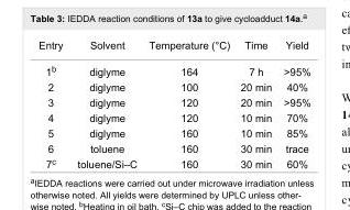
<table><tbody><tr><td>Entry</td><td>Solvent</td><td>Temperature (°C)</td><td>Time</td><td>Yield</td></tr><tr><td>1<sup>b</sup></td><td>diglyme</td><td>164</td><td>7 h</td><td>&gt;95%</td></tr><tr><td>2</td><td>diglyme</td><td>100</td><td>20 min</td><td>40%</td></tr><tr><td>3</td><td>diglyme</td><td>120</td><td>20 min</td><td>&gt;95%</td></tr><tr><td>4</td><td>diglyme</td><td>120</td><td>10 min</td><td>70%</td></tr><tr><td>5</td><td>diglyme</td><td>160</td><td>10 min</td><td>85%</td></tr><tr><td>6</td><td>toluene</td><td>160</td><td>30 min</td><td>trace</td></tr><tr><td>7<sup>c</sup></td><td>toluene/Si–C</td><td>160</td><td>30 min</td><td>60%</td></tr></tbody></table>